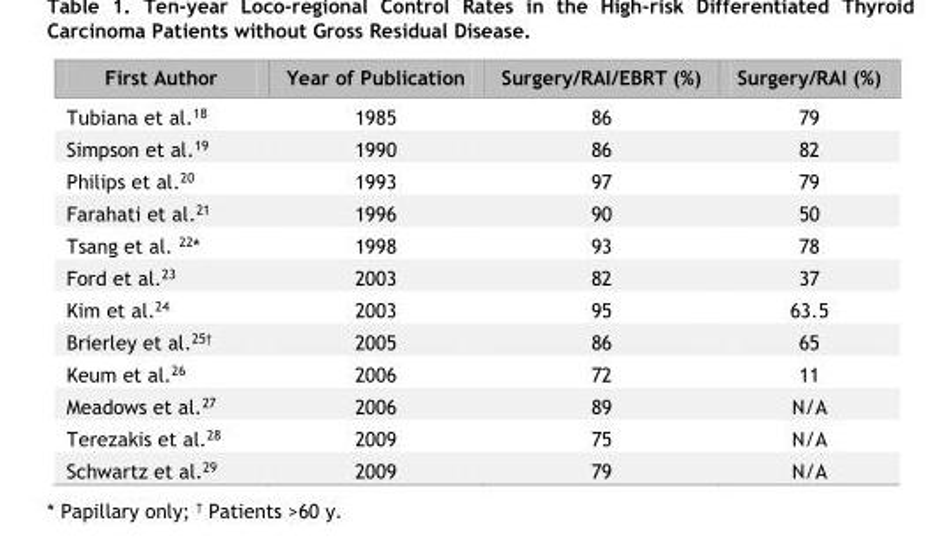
<table><thead><tr><td>First Author</td><td>Year of Publication</td><td>Surgery/RAI/EBRT (%)</td><td>Surgery/RAI (%)</td></tr></thead><tbody><tr><td>Tubiana et al.<sup>18</sup></td><td>1985</td><td>86</td><td>79</td></tr><tr><td>Simpson et al.<sup>19</sup></td><td>1990</td><td>86</td><td>82</td></tr><tr><td>Philips et al.<sup>20</sup></td><td>1993</td><td>97</td><td>79</td></tr><tr><td>Farahati et al.<sup>21</sup></td><td>1996</td><td>90</td><td>50</td></tr><tr><td>Tsang et al. <sup>22*</sup></td><td>1998</td><td>93</td><td>78</td></tr><tr><td>Ford et al.<sup>23</sup></td><td>2003</td><td>82</td><td>37</td></tr><tr><td>Kim et al.<sup>24</sup></td><td>2003</td><td>95</td><td>63.5</td></tr><tr><td>Brierley et al.<sup>25†</sup></td><td>2005</td><td>86</td><td>65</td></tr><tr><td>Keum et al.<sup>26</sup></td><td>2006</td><td>72</td><td>11</td></tr><tr><td>Meadows et al.<sup>27</sup></td><td>2006</td><td>89</td><td>N/A</td></tr><tr><td>Terezakis et al.<sup>28</sup></td><td>2009</td><td>75</td><td>N/A</td></tr><tr><td>Schwartz et al.<sup>29</sup></td><td>2009</td><td>79</td><td>N/A</td></tr></tbody></table>